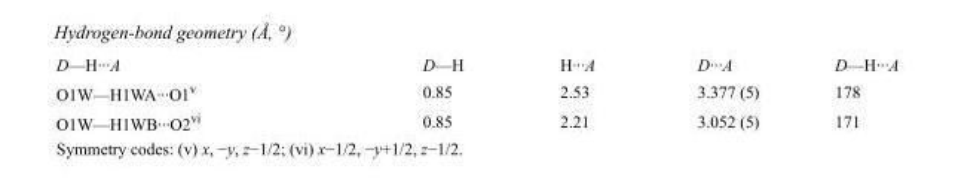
<table><tbody><tr><td>D—H···A</td><td>D—H</td><td>H···A</td><td>D···A</td><td>D—H···A</td></tr><tr><td>O1W—H1WA···O1<sup>v</sup></td><td>0.85</td><td>2.53</td><td>3.377 (5)</td><td>178</td></tr><tr><td>O1W—H1WB···O2<sup>vi</sup></td><td>0.85</td><td>2.21</td><td>3.052 (5)</td><td>171</td></tr></tbody></table>